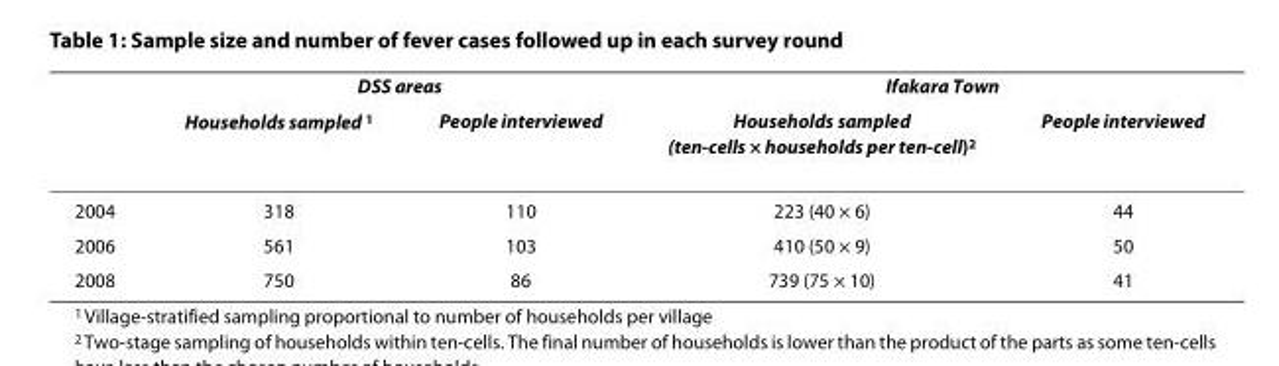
<table><thead><tr><td rowspan="2"></td><td colspan="2">DSS areas</td><td colspan="2">Ifakara Town</td></tr><tr><td>Households sampled <sup>1</sup></td><td>People interviewed</td><td>Households sampled (ten-cells × households per ten-cell)<sup>2</sup></td><td>People interviewed</td></tr></thead><tbody><tr><td>2004</td><td>318</td><td>110</td><td>223 (40 × 6)</td><td>44</td></tr><tr><td>2006</td><td>561</td><td>103</td><td>410 (50 × 9)</td><td>50</td></tr><tr><td>2008</td><td>750</td><td>86</td><td>739 (75 × 10)</td><td>41</td></tr></tbody></table>